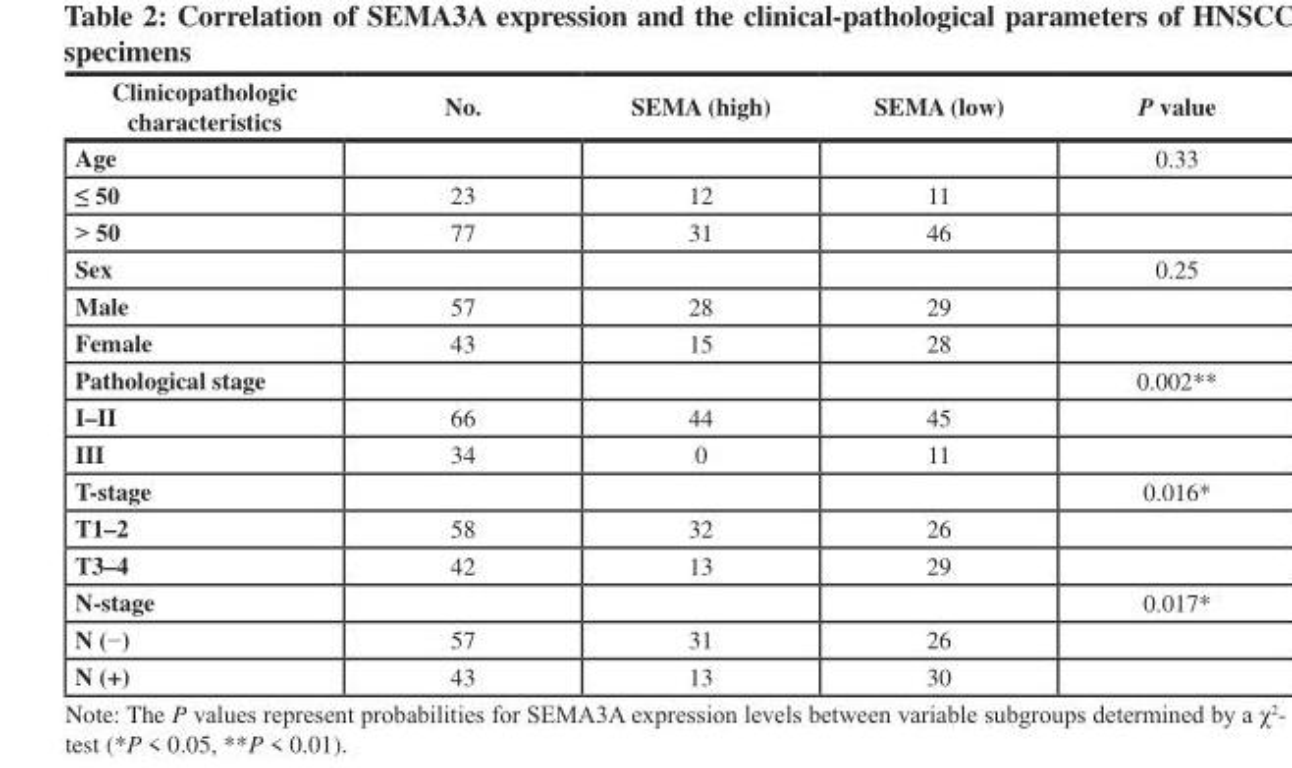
<table><thead><tr><td>Clinicopathologic characteristics</td><td>No.</td><td>SEMA (high)</td><td>SEMA (low)</td><td>P value</td></tr></thead><tbody><tr><td>Age</td><td></td><td></td><td></td><td>0.33</td></tr><tr><td>≤ 50</td><td>23</td><td>12</td><td>11</td><td></td></tr><tr><td>&gt; 50</td><td>77</td><td>31</td><td>46</td><td></td></tr><tr><td>Sex</td><td></td><td></td><td></td><td>0.25</td></tr><tr><td>Male</td><td>57</td><td>28</td><td>29</td><td></td></tr><tr><td>Female</td><td>43</td><td>15</td><td>28</td><td></td></tr><tr><td>Pathological stage</td><td></td><td></td><td></td><td>0.002**</td></tr><tr><td>I–II</td><td>66</td><td>44</td><td>45</td><td></td></tr><tr><td>III</td><td>34</td><td>0</td><td>11</td><td></td></tr><tr><td>T-stage</td><td></td><td></td><td></td><td>0.016*</td></tr><tr><td>T1–2</td><td>58</td><td>32</td><td>26</td><td></td></tr><tr><td>T3–4</td><td>42</td><td>13</td><td>29</td><td></td></tr><tr><td>N-stage</td><td></td><td></td><td></td><td>0.017*</td></tr><tr><td>N (−)</td><td>57</td><td>31</td><td>26</td><td></td></tr><tr><td>N (+)</td><td>43</td><td>13</td><td>30</td><td></td></tr></tbody></table>